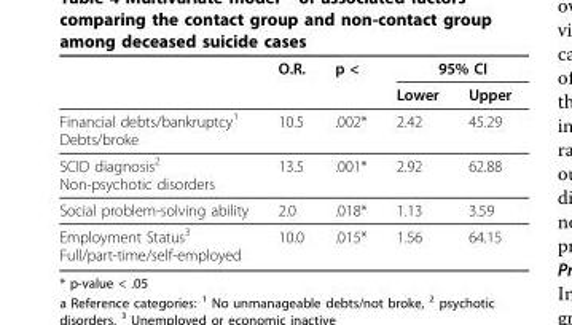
<table><thead><tr><td rowspan="2"></td><td rowspan="2">O.R.</td><td rowspan="2">p &lt;</td><td colspan="2">95% CI</td></tr><tr><td>Lower</td><td>Upper</td></tr></thead><tbody><tr><td>Financial debts/bankruptcy<sup>1</sup> Debts/broke</td><td>10.5</td><td>.002*</td><td>2.42</td><td>45.29</td></tr><tr><td>SCID diagnosis<sup>2</sup> Non-psychotic disorders</td><td>13.5</td><td>.001*</td><td>2.92</td><td>62.88</td></tr><tr><td>Social problem-solving ability</td><td>2.0</td><td>.018*</td><td>1.13</td><td>3.59</td></tr><tr><td>Employment Status<sup>3</sup> Full/part-time/self-employed</td><td>10.0</td><td>.015*</td><td>1.56</td><td>64.15</td></tr></tbody></table>